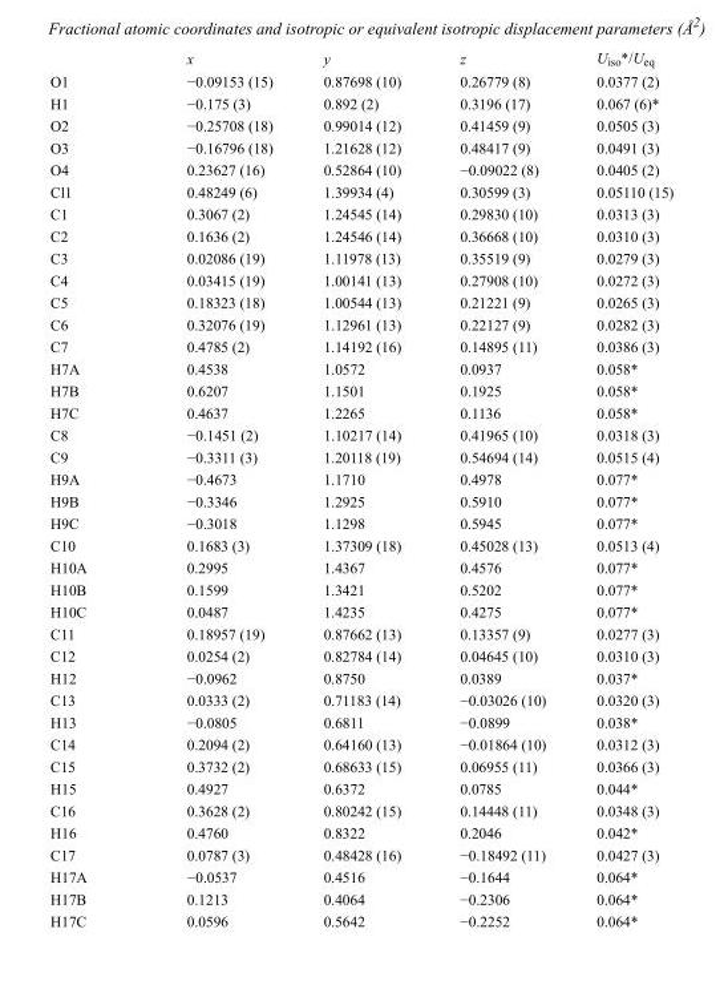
<table><thead><tr><td></td><td>x</td><td>y</td><td>z</td><td>U<sub>iso</sub>*/U<sub>eq</sub></td></tr></thead><tbody><tr><td>O1</td><td>−0.09153 (15)</td><td>0.87698 (10)</td><td>0.26779 (8)</td><td>0.0377 (2)</td></tr><tr><td>H1</td><td>−0.175 (3)</td><td>0.892 (2)</td><td>0.3196 (17)</td><td>0.067 (6)*</td></tr><tr><td>O2</td><td>−0.25708 (18)</td><td>0.99014 (12)</td><td>0.41459 (9)</td><td>0.0505 (3)</td></tr><tr><td>O3</td><td>−0.16796 (18)</td><td>1.21628 (12)</td><td>0.48417 (9)</td><td>0.0491 (3)</td></tr><tr><td>O4</td><td>0.23627 (16)</td><td>0.52864 (10)</td><td>−0.09022 (8)</td><td>0.0405 (2)</td></tr><tr><td>Cl1</td><td>0.48249 (6)</td><td>1.39934 (4)</td><td>0.30599 (3)</td><td>0.05110 (15)</td></tr><tr><td>C1</td><td>0.3067 (2)</td><td>1.24545 (14)</td><td>0.29830 (10)</td><td>0.0313 (3)</td></tr><tr><td>C2</td><td>0.1636 (2)</td><td>1.24546 (14)</td><td>0.36668 (10)</td><td>0.0310 (3)</td></tr><tr><td>C3</td><td>0.02086 (19)</td><td>1.11978 (13)</td><td>0.35519 (9)</td><td>0.0279 (3)</td></tr><tr><td>C4</td><td>0.03415 (19)</td><td>1.00141 (13)</td><td>0.27908 (10)</td><td>0.0272 (3)</td></tr><tr><td>C5</td><td>0.18323 (18)</td><td>1.00544 (13)</td><td>0.21221 (9)</td><td>0.0265 (3)</td></tr><tr><td>C6</td><td>0.32076 (19)</td><td>1.12961 (13)</td><td>0.22127 (9)</td><td>0.0282 (3)</td></tr><tr><td>C7</td><td>0.4785 (2)</td><td>1.14192 (16)</td><td>0.14895 (11)</td><td>0.0386 (3)</td></tr><tr><td>H7A</td><td>0.4538</td><td>1.0572</td><td>0.0937</td><td>0.058*</td></tr><tr><td>H7B</td><td>0.6207</td><td>1.1501</td><td>0.1925</td><td>0.058*</td></tr><tr><td>H7C</td><td>0.4637</td><td>1.2265</td><td>0.1136</td><td>0.058*</td></tr><tr><td>C8</td><td>−0.1451 (2)</td><td>1.10217 (14)</td><td>0.41965 (10)</td><td>0.0318 (3)</td></tr><tr><td>C9</td><td>−0.3311 (3)</td><td>1.20118 (19)</td><td>0.54694 (14)</td><td>0.0515 (4)</td></tr><tr><td>H9A</td><td>−0.4673</td><td>1.1710</td><td>0.4978</td><td>0.077*</td></tr><tr><td>H9B</td><td>−0.3346</td><td>1.2925</td><td>0.5910</td><td>0.077*</td></tr><tr><td>H9C</td><td>−0.3018</td><td>1.1298</td><td>0.5945</td><td>0.077*</td></tr><tr><td>C10</td><td>0.1683 (3)</td><td>1.37309 (18)</td><td>0.45028 (13)</td><td>0.0513 (4)</td></tr><tr><td>H10A</td><td>0.2995</td><td>1.4367</td><td>0.4576</td><td>0.077*</td></tr><tr><td>H10B</td><td>0.1599</td><td>1.3421</td><td>0.5202</td><td>0.077*</td></tr><tr><td>H10C</td><td>0.0487</td><td>1.4235</td><td>0.4275</td><td>0.077*</td></tr><tr><td>C11</td><td>0.18957 (19)</td><td>0.87662 (13)</td><td>0.13357 (9)</td><td>0.0277 (3)</td></tr><tr><td>C12</td><td>0.0254 (2)</td><td>0.82784 (14)</td><td>0.04645 (10)</td><td>0.0310 (3)</td></tr><tr><td>H12</td><td>−0.0962</td><td>0.8750</td><td>0.0389</td><td>0.037*</td></tr><tr><td>C13</td><td>0.0333 (2)</td><td>0.71183 (14)</td><td>−0.03026 (10)</td><td>0.0320 (3)</td></tr><tr><td>H13</td><td>−0.0805</td><td>0.6811</td><td>−0.0899</td><td>0.038*</td></tr><tr><td>C14</td><td>0.2094 (2)</td><td>0.64160 (13)</td><td>−0.01864 (10)</td><td>0.0312 (3)</td></tr><tr><td>C15</td><td>0.3732 (2)</td><td>0.68633 (15)</td><td>0.06955 (11)</td><td>0.0366 (3)</td></tr><tr><td>H15</td><td>0.4927</td><td>0.6372</td><td>0.0785</td><td>0.044*</td></tr><tr><td>C16</td><td>0.3628 (2)</td><td>0.80242 (15)</td><td>0.14448 (11)</td><td>0.0348 (3)</td></tr><tr><td>H16</td><td>0.4760</td><td>0.8322</td><td>0.2046</td><td>0.042*</td></tr><tr><td>C17</td><td>0.0787 (3)</td><td>0.48428 (16)</td><td>−0.18492 (11)</td><td>0.0427 (3)</td></tr><tr><td>H17A</td><td>−0.0537</td><td>0.4516</td><td>−0.1644</td><td>0.064*</td></tr><tr><td>H17B</td><td>0.1213</td><td>0.4064</td><td>−0.2306</td><td>0.064*</td></tr><tr><td>H17C</td><td>0.0596</td><td>0.5642</td><td>−0.2252</td><td>0.064*</td></tr></tbody></table>